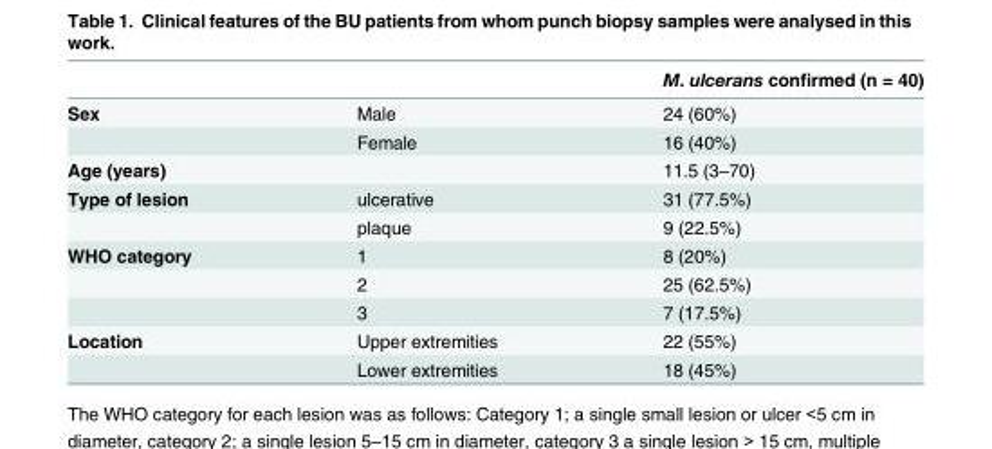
<table><thead><tr><td></td><td></td><td>M. ulcerans confirmed (n = 40)</td></tr></thead><tbody><tr><td rowspan="2">Sex</td><td>Male</td><td>24 (60%)</td></tr><tr><td>Female</td><td>16 (40%)</td></tr><tr><td colspan="2">Age (years)</td><td>11.5 (3–70)</td></tr><tr><td rowspan="2">Type of lesion</td><td>ulcerative</td><td>31 (77.5%)</td></tr><tr><td>plaque</td><td>9 (22.5%)</td></tr><tr><td rowspan="3">WHO category</td><td>1</td><td>8 (20%)</td></tr><tr><td>2</td><td>25 (62.5%)</td></tr><tr><td>3</td><td>7 (17.5%)</td></tr><tr><td rowspan="2">Location</td><td>Upper extremities</td><td>22 (55%)</td></tr><tr><td>Lower extremities</td><td>18 (45%)</td></tr></tbody></table>